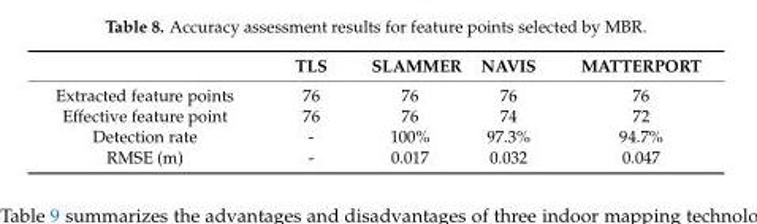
<table><thead><tr><td></td><td>TLS</td><td>SLAMMER</td><td>NAVIS</td><td>MATTERPORT</td></tr></thead><tbody><tr><td>Extracted feature points</td><td>76</td><td>76</td><td>76</td><td>76</td></tr><tr><td>Effective feature point</td><td>76</td><td>76</td><td>74</td><td>72</td></tr><tr><td>Detection rate</td><td>-</td><td>100%</td><td>97.3%</td><td>94.7%</td></tr><tr><td>RMSE (m)</td><td>-</td><td>0.017</td><td>0.032</td><td>0.047</td></tr></tbody></table>